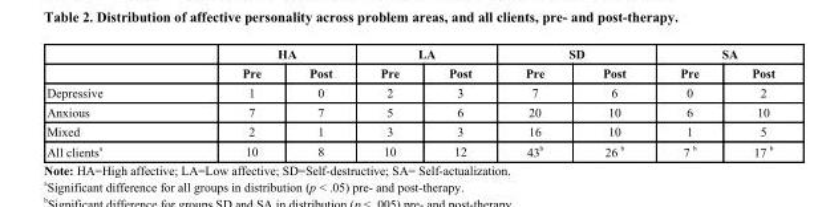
<table><thead><tr><td rowspan="2"></td><td colspan="2">HA</td><td colspan="2">LA</td><td colspan="2">SD</td><td colspan="2">SA</td></tr><tr><td>Pre</td><td>Post</td><td>Pre</td><td>Post</td><td>Pre</td><td>Post</td><td>Pre</td><td>Post</td></tr></thead><tbody><tr><td>Depressive</td><td>1</td><td>0</td><td>2</td><td>3</td><td>7</td><td>6</td><td>0</td><td>2</td></tr><tr><td>Anxious</td><td>7</td><td>7</td><td>5</td><td>6</td><td>20</td><td>10</td><td>6</td><td>10</td></tr><tr><td>Mixed</td><td>2</td><td>1</td><td>3</td><td>3</td><td>16</td><td>10</td><td>1</td><td>5</td></tr><tr><td>All clients <sup>a</sup></td><td>10</td><td>8</td><td>10</td><td>12</td><td>43 <sup>b</sup></td><td>26 <sup>b</sup></td><td>7 <sup>b</sup></td><td>17 <sup>b</sup></td></tr></tbody></table>